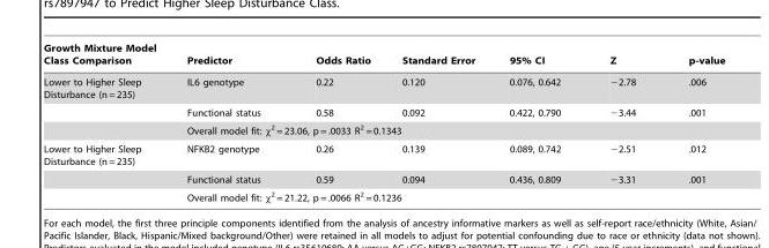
<table><thead><tr><td>Growth Mixture Model Class Comparison</td><td>Predictor</td><td>Odds Ratio</td><td>Standard Error</td><td>95% CI</td><td>Z</td><td>p-value</td></tr></thead><tbody><tr><td rowspan="3">Lower to Higher Sleep Disturbance (n = 235)</td><td>IL6 genotype</td><td>0.22</td><td>0.120</td><td>0.076, 0.642</td><td>−2.78</td><td>.006</td></tr><tr><td>Functional status</td><td>0.58</td><td>0.092</td><td>0.422, 0.790</td><td>−3.44</td><td>.001</td></tr><tr><td colspan="6">Overall model fit: χ<sup>2</sup> = 23.06, p = .0033 R<sup>2</sup> = 0.1343</td></tr><tr><td rowspan="3">Lower to Higher Sleep Disturbance (n = 235)</td><td>NFKB2 genotype</td><td>0.26</td><td>0.139</td><td>0.089, 0.742</td><td>−2.51</td><td>.012</td></tr><tr><td>Functional status</td><td>0.59</td><td>0.094</td><td>0.436, 0.809</td><td>−3.31</td><td>.001</td></tr><tr><td colspan="6">Overall model fit: χ<sup>2</sup> = 21.22, p = .0066 R<sup>2</sup> = 0.1236</td></tr></tbody></table>